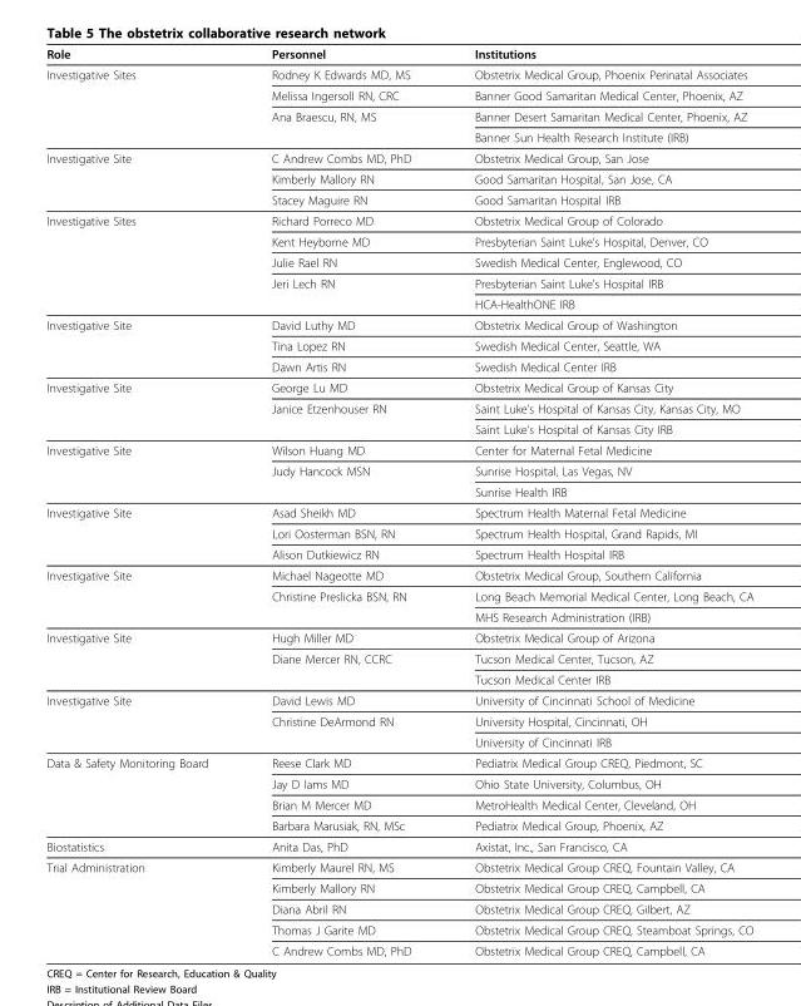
<table><thead><tr><td>Role</td><td>Personnel</td><td>Institutions</td></tr></thead><tbody><tr><td rowspan="4">Investigative Sites</td><td>Rodney K Edwards MD, MS</td><td>Obstetrix Medical Group, Phoenix Perinatal Associates</td></tr><tr><td>Melissa Ingersoll RN, CRC</td><td>Banner Good Samaritan Medical Center, Phoenix, AZ</td></tr><tr><td>Ana Braescu, RN, MS</td><td>Banner Desert Samaritan Medical Center, Phoenix, AZ</td></tr><tr><td></td><td>Banner Sun Health Research Institute (IRB)</td></tr><tr><td rowspan="3">Investigative Site</td><td>C Andrew Combs MD, PhD</td><td>Obstetrix Medical Group, San Jose</td></tr><tr><td>Kimberly Mallory RN</td><td>Good Samaritan Hospital, San Jose, CA</td></tr><tr><td>Stacey Maguire RN</td><td>Good Samaritan Hospital IRB</td></tr><tr><td rowspan="5">Investigative Sites</td><td>Richard Porreco MD</td><td>Obstetrix Medical Group of Colorado</td></tr><tr><td>Kent Heyborne MD</td><td>Presbyterian Saint Luke’s Hospital, Denver, CO</td></tr><tr><td>Julie Rael RN</td><td>Swedish Medical Center, Englewood, CO</td></tr><tr><td>Jeri Lech RN</td><td>Presbyterian Saint Luke’s Hospital IRB</td></tr><tr><td></td><td>HCA-HealthONE IRB</td></tr><tr><td rowspan="3">Investigative Site</td><td>David Luthy MD</td><td>Obstetrix Medical Group of Washington</td></tr><tr><td>Tina Lopez RN</td><td>Swedish Medical Center, Seattle, WA</td></tr><tr><td>Dawn Artis RN</td><td>Swedish Medical Center IRB</td></tr><tr><td rowspan="3">Investigative Site</td><td>George Lu MD</td><td>Obstetrix Medical Group of Kansas City</td></tr><tr><td>Janice Etzenhouser RN</td><td>Saint Luke’s Hospital of Kansas City, Kansas City, MO</td></tr><tr><td></td><td>Saint Luke’s Hospital of Kansas City IRB</td></tr><tr><td rowspan="3">Investigative Site</td><td>Wilson Huang MD</td><td>Center for Maternal Fetal Medicine</td></tr><tr><td>Judy Hancock MSN</td><td>Sunrise Hospital, Las Vegas, NV</td></tr><tr><td></td><td>Sunrise Health IRB</td></tr><tr><td rowspan="3">Investigative Site</td><td>Asad Sheikh MD</td><td>Spectrum Health Maternal Fetal Medicine</td></tr><tr><td>Lori Oosterman BSN, RN</td><td>Spectrum Health Hospital, Grand Rapids, MI</td></tr><tr><td>Alison Dutkiewicz RN</td><td>Spectrum Health Hospital IRB</td></tr><tr><td rowspan="3">Investigative Site</td><td>Michael Nageotte MD</td><td>Obstetrix Medical Group, Southern California</td></tr><tr><td>Christine Preslicka BSN, RN</td><td>Long Beach Memorial Medical Center, Long Beach, CA</td></tr><tr><td></td><td>MHS Research Administration (IRB)</td></tr><tr><td rowspan="3">Investigative Site</td><td>Hugh Miller MD</td><td>Obstetrix Medical Group of Arizona</td></tr><tr><td>Diane Mercer RN, CCRC</td><td>Tucson Medical Center, Tucson, AZ</td></tr><tr><td></td><td>Tucson Medical Center IRB</td></tr><tr><td rowspan="3">Investigative Site</td><td>David Lewis MD</td><td>University of Cincinnati School of Medicine</td></tr><tr><td>Christine DeArmond RN</td><td>University Hospital, Cincinnati, OH</td></tr><tr><td></td><td>University of Cincinnati IRB</td></tr><tr><td rowspan="4">Data &amp; Safety Monitoring Board</td><td>Reese Clark MD</td><td>Pediatrix Medical Group CREQ, Piedmont, SC</td></tr><tr><td>Jay D Iams MD</td><td>Ohio State University, Columbus, OH</td></tr><tr><td>Brian M Mercer MD</td><td>MetroHealth Medical Center, Cleveland, OH</td></tr><tr><td>Barbara Marusiak, RN, MSc</td><td>Pediatrix Medical Group, Phoenix, AZ</td></tr><tr><td>Biostatistics</td><td>Anita Das, PhD</td><td>Axistat, Inc., San Francisco, CA</td></tr><tr><td rowspan="5">Trial Administration</td><td>Kimberly Maurel RN, MS</td><td>Obstetrix Medical Group CREQ, Fountain Valley, CA</td></tr><tr><td>Kimberly Mallory RN</td><td>Obstetrix Medical Group CREQ, Campbell, CA</td></tr><tr><td>Diana Abril RN</td><td>Obstetrix Medical Group CREQ, Gilbert, AZ</td></tr><tr><td>Thomas J Garite MD</td><td>Obstetrix Medical Group CREQ, Steamboat Springs, CO</td></tr><tr><td>C Andrew Combs MD, PhD</td><td>Obstetrix Medical Group CREQ, Campbell, CA</td></tr></tbody></table>